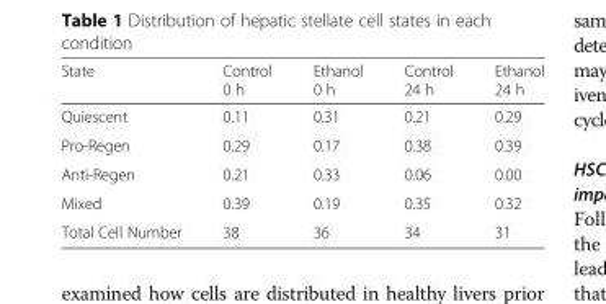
<table><thead><tr><td>State</td><td>Control 0 h</td><td>Ethanol 0 h</td><td>Control 24 h</td><td>Ethanol 24 h</td></tr></thead><tbody><tr><td>Quiescent</td><td>0.11</td><td>0.31</td><td>0.21</td><td>0.29</td></tr><tr><td>Pro-Regen</td><td>0.29</td><td>0.17</td><td>0.38</td><td>0.39</td></tr><tr><td>Anti-Regen</td><td>0.21</td><td>0.33</td><td>0.06</td><td>0.00</td></tr><tr><td>Mixed</td><td>0.39</td><td>0.19</td><td>0.35</td><td>0.32</td></tr><tr><td>Total Cell Number</td><td>38</td><td>36</td><td>34</td><td>31</td></tr></tbody></table>